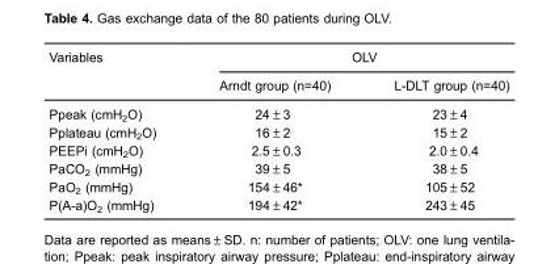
<table><thead><tr><td rowspan="2">Variables</td><td colspan="2">OLV</td></tr><tr><td>Arndt group (n=40)</td><td>L-DLT group (n=40)</td></tr></thead><tbody><tr><td>Ppeak (cmH2O)</td><td>24±3</td><td>23±4</td></tr><tr><td>Pplateau (cmH2O)</td><td>16±2</td><td>15±2</td></tr><tr><td>PEEPi (cmH2O)</td><td>2.5±0.3</td><td>2.0±0.4</td></tr><tr><td>PaCO2 (mmHg)</td><td>39±5</td><td>38±5</td></tr><tr><td>PaO2 (mmHg)</td><td>154±46*</td><td>105±52</td></tr><tr><td>P(A-a)O2 (mmHg)</td><td>194±42*</td><td>243±45</td></tr></tbody></table>